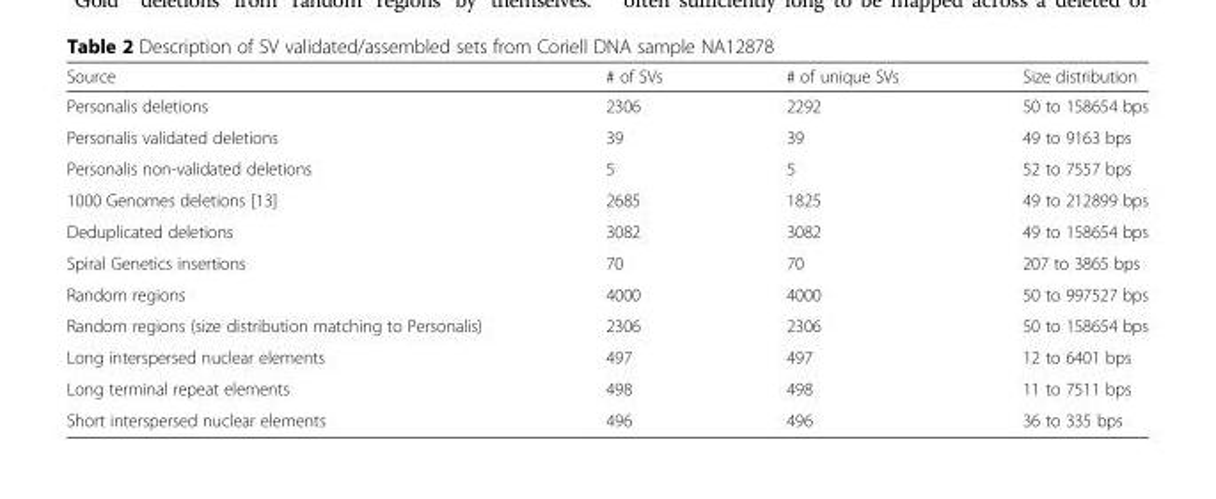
<table><thead><tr><td>Source</td><td># of SVs</td><td># of unique SVs</td><td>Size distribution</td></tr></thead><tbody><tr><td>Personalis deletions</td><td>2306</td><td>2292</td><td>50 to 158654 bps</td></tr><tr><td>Personalis validated deletions</td><td>39</td><td>39</td><td>49 to 9163 bps</td></tr><tr><td>Personalis non-validated deletions</td><td>5</td><td>5</td><td>52 to 7557 bps</td></tr><tr><td>1000 Genomes deletions [13]</td><td>2685</td><td>1825</td><td>49 to 212899 bps</td></tr><tr><td>Deduplicated deletions</td><td>3082</td><td>3082</td><td>49 to 158654 bps</td></tr><tr><td>Spiral Genetics insertions</td><td>70</td><td>70</td><td>207 to 3865 bps</td></tr><tr><td>Random regions</td><td>4000</td><td>4000</td><td>50 to 997527 bps</td></tr><tr><td>Random regions (size distribution matching to Personalis)</td><td>2306</td><td>2306</td><td>50 to 158654 bps</td></tr><tr><td>Long interspersed nuclear elements</td><td>497</td><td>497</td><td>12 to 6401 bps</td></tr><tr><td>Long terminal repeat elements</td><td>498</td><td>498</td><td>11 to 7511 bps</td></tr><tr><td>Short interspersed nuclear elements</td><td>496</td><td>496</td><td>36 to 335 bps</td></tr></tbody></table>